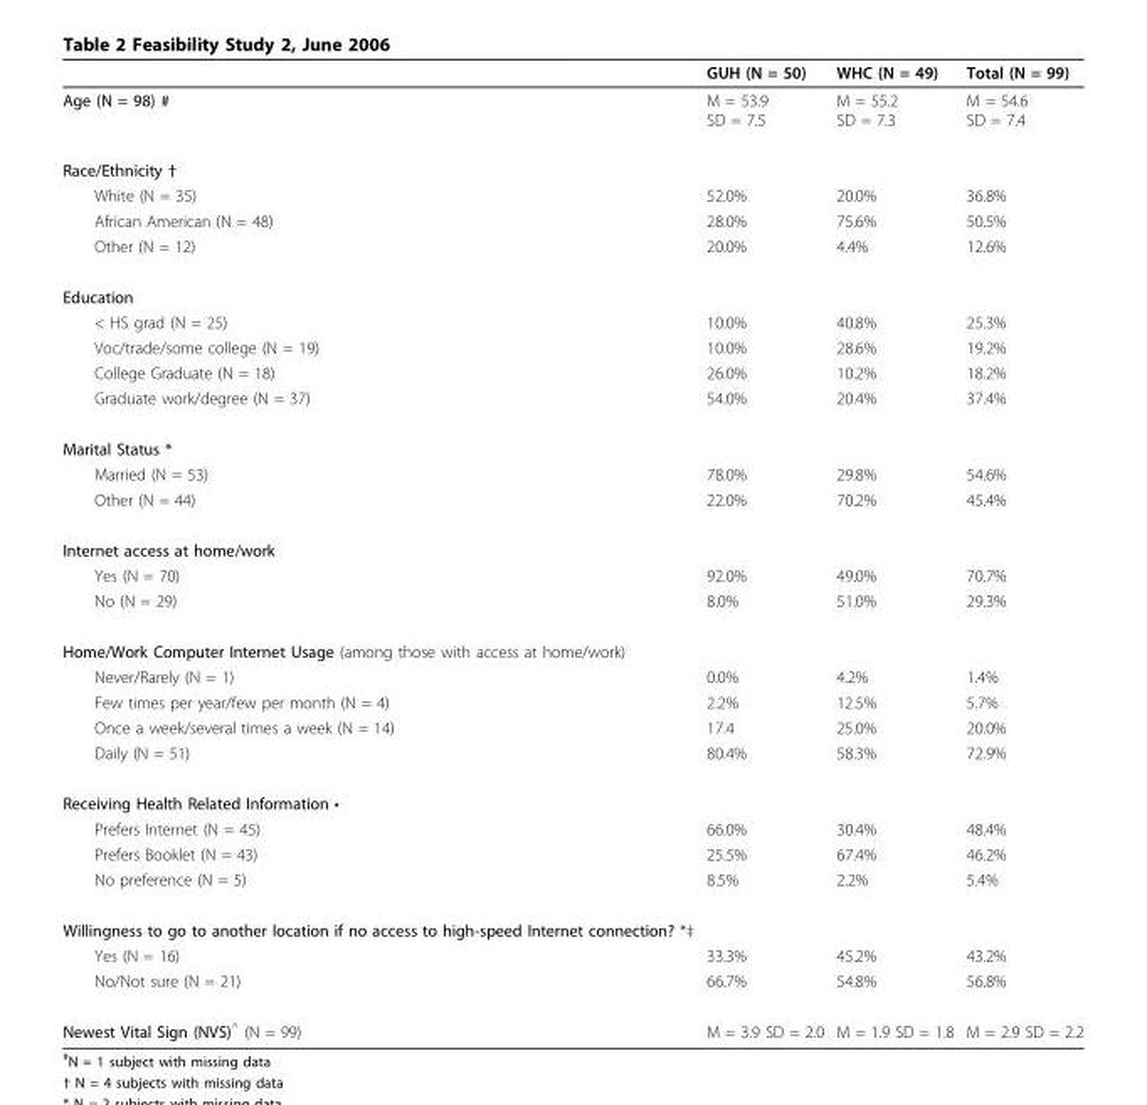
<table><thead><tr><td></td><td>GUH (N = 50)</td><td>WHC (N = 49)</td><td>Total (N = 99)</td></tr></thead><tbody><tr><td>Age (N = 98) #</td><td>M = 53.9 SD = 7.5</td><td>M = 55.2 SD = 7.3</td><td>M = 54.6 SD = 7.4</td></tr><tr><td colspan="4">Race/Ethnicity †</td></tr><tr><td>White (N = 35)</td><td>52.0%</td><td>20.0%</td><td>36.8%</td></tr><tr><td>African American (N = 48)</td><td>28.0%</td><td>75.6%</td><td>50.5%</td></tr><tr><td>Other (N = 12)</td><td>20.0%</td><td>4.4%</td><td>12.6%</td></tr><tr><td colspan="4">Education</td></tr><tr><td>&lt; HS grad (N = 25)</td><td>10.0%</td><td>40.8%</td><td>25.3%</td></tr><tr><td>Voc/trade/some college (N = 19)</td><td>10.0%</td><td>28.6%</td><td>19.2%</td></tr><tr><td>College Graduate (N = 18)</td><td>26.0%</td><td>10.2%</td><td>18.2%</td></tr><tr><td>Graduate work/degree (N = 37)</td><td>54.0%</td><td>20.4%</td><td>37.4%</td></tr><tr><td colspan="4">Marital Status *</td></tr><tr><td>Married (N = 53)</td><td>78.0%</td><td>29.8%</td><td>54.6%</td></tr><tr><td>Other (N = 44)</td><td>22.0%</td><td>70.2%</td><td>45.4%</td></tr><tr><td colspan="4">Internet access at home/work</td></tr><tr><td>Yes (N = 70)</td><td>92.0%</td><td>49.0%</td><td>70.7%</td></tr><tr><td>No (N = 29)</td><td>8.0%</td><td>51.0%</td><td>29.3%</td></tr><tr><td colspan="4">Home/Work Computer Internet Usage (among those with access at home/work)</td></tr><tr><td>Never/Rarely (N = 1)</td><td>0.0%</td><td>4.2%</td><td>1.4%</td></tr><tr><td>Few times per year/few per month (N = 4)</td><td>2.2%</td><td>12.5%</td><td>5.7%</td></tr><tr><td>Once a week/several times a week (N = 14)</td><td>17.4</td><td>25.0%</td><td>20.0%</td></tr><tr><td>Daily (N = 51)</td><td>80.4%</td><td>58.3%</td><td>72.9%</td></tr><tr><td colspan="4">Receiving Health Related Information •</td></tr><tr><td>Prefers Internet (N = 45)</td><td>66.0%</td><td>30.4%</td><td>48.4%</td></tr><tr><td>Prefers Booklet (N = 43)</td><td>25.5%</td><td>67.4%</td><td>46.2%</td></tr><tr><td>No preference (N = 5)</td><td>8.5%</td><td>2.2%</td><td>5.4%</td></tr><tr><td colspan="4">Willingness to go to another location if no access to high-speed Internet connection? *‡</td></tr><tr><td>Yes (N = 16)</td><td>33.3%</td><td>45.2%</td><td>43.2%</td></tr><tr><td>No/Not sure (N = 21)</td><td>66.7%</td><td>54.8%</td><td>56.8%</td></tr><tr><td>Newest Vital Sign (NVS)^ (N = 99)</td><td>M = 3.9 SD = 2.0</td><td>M = 1.9 SD = 1.8</td><td>M = 2.9 SD = 2.2</td></tr></tbody></table>